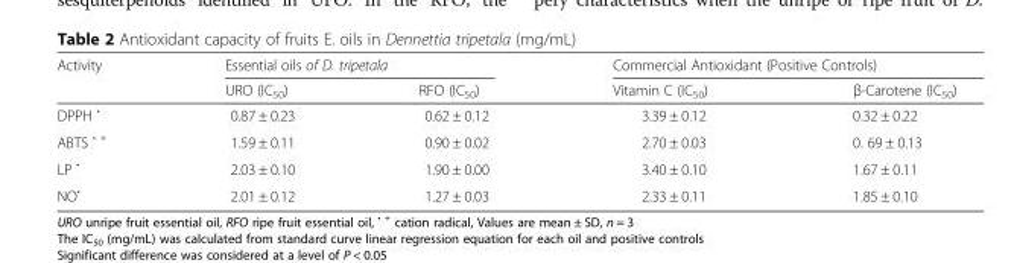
<table><thead><tr><td rowspan="2">Activity</td><td colspan="2">Essential oils of D. tripetala</td><td colspan="2">Commercial Antioxidant (Positive Controls)</td></tr><tr><td>URO (IC<sub>50</sub>)</td><td>RFO (IC<sub>50</sub>)</td><td>Vitamin C (IC<sub>50</sub>)</td><td>β-Carotene (IC<sub>50</sub>)</td></tr></thead><tbody><tr><td>DPPH <sup>•</sup></td><td>0.87 ± 0.23</td><td>0.62 ± 0.12</td><td>3.39 ± 0.12</td><td>0.32 ± 0.22</td></tr><tr><td>ABTS <sup>• +</sup></td><td>1.59 ± 0.11</td><td>0.90 ± 0.02</td><td>2.70 ± 0.03</td><td>0. 69 ± 0.13</td></tr><tr><td>LP <sup>•</sup></td><td>2.03 ± 0.10</td><td>1.90 ± 0.00</td><td>3.40 ± 0.10</td><td>1.67 ± 0.11</td></tr><tr><td>NO<sup>•</sup></td><td>2.01 ± 0.12</td><td>1.27 ± 0.03</td><td>2.33 ± 0.11</td><td>1.85 ± 0.10</td></tr></tbody></table>